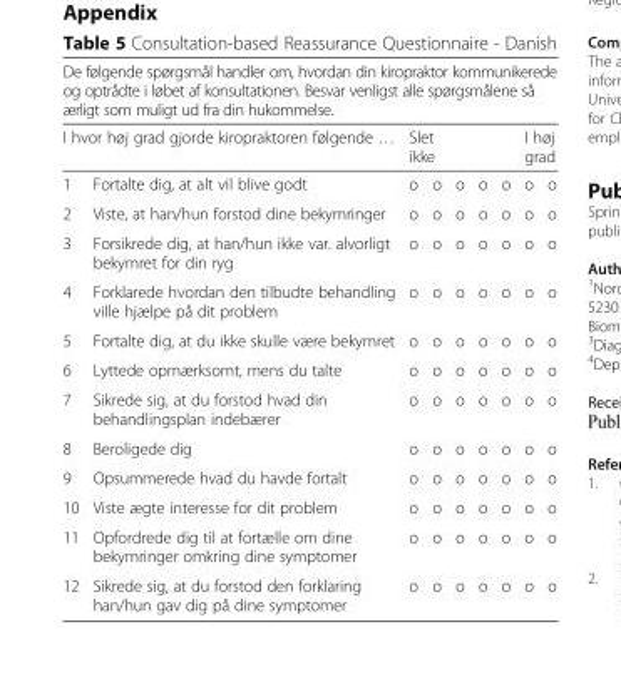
<table><thead><tr><td colspan="9">De følgende spørgsmål handler om, hvordan din kiropraktor kommunikerede og optrådte i løbet af konsultationen. Besvar venligst alle spørgsmålene så ærligt som muligt ud fra din hukommelse.</td></tr><tr><td colspan="2">I hvor høj grad gjorde kiropraktoren følgende …</td><td colspan="2">Slet ikke</td><td rowspan="2">o</td><td rowspan="2">o</td><td rowspan="2">o</td><td colspan="2">I høj grad</td></tr><tr><td>1</td><td>Fortalte dig, at alt vil blive godt</td><td>o</td><td>o</td><td>o</td><td>o</td></tr></thead><tbody><tr><td>2</td><td>Viste, at han/hun forstod dine bekymringer</td><td>o</td><td>o</td><td>o</td><td>o</td><td>o</td><td>o</td><td>o</td></tr><tr><td>3</td><td>Forsikrede dig, at han/hun ikke var. alvorligt bekymret for din ryg</td><td>o</td><td>o</td><td>o</td><td>o</td><td>o</td><td>o</td><td>o</td></tr><tr><td>4</td><td>Forklarede hvordan den tilbudte behandling ville hjælpe på dit problem</td><td>o</td><td>o</td><td>o</td><td>o</td><td>o</td><td>o</td><td>o</td></tr><tr><td>5</td><td>Fortalte dig, at du ikke skulle være bekymret</td><td>o</td><td>o</td><td>o</td><td>o</td><td>o</td><td>o</td><td>o</td></tr><tr><td>6</td><td>Lyttede opmærksomt, mens du talte</td><td>o</td><td>o</td><td>o</td><td>o</td><td>o</td><td>o</td><td>o</td></tr><tr><td>7</td><td>Sikrede sig, at du forstod hvad din behandlingsplan indebærer</td><td>o</td><td>o</td><td>o</td><td>o</td><td>o</td><td>o</td><td>o</td></tr><tr><td>8</td><td>Beroligede dig</td><td>o</td><td>o</td><td>o</td><td>o</td><td>o</td><td>o</td><td>o</td></tr><tr><td>9</td><td>Opsummerede hvad du havde fortalt</td><td>o</td><td>o</td><td>o</td><td>o</td><td>o</td><td>o</td><td>o</td></tr><tr><td>10</td><td>Viste ægte interesse for dit problem</td><td>o</td><td>o</td><td>o</td><td>o</td><td>o</td><td>o</td><td>o</td></tr><tr><td>11</td><td>Opfordrede dig til at fortælle om dine bekymringer omkring dine symptomer</td><td>o</td><td>o</td><td>o</td><td>o</td><td>o</td><td>o</td><td>o</td></tr><tr><td>12</td><td>Sikrede sig, at du forstod den forklaring han/hun gav dig på dine symptomer</td><td>o</td><td>o</td><td>o</td><td>o</td><td>o</td><td>o</td><td>o</td></tr></tbody></table>